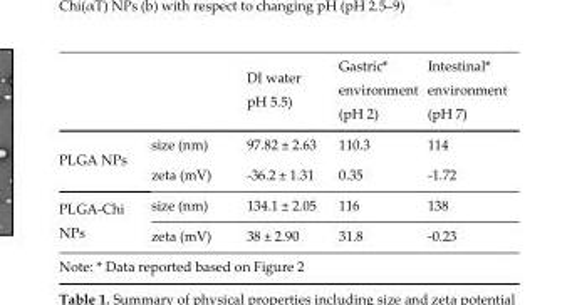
<table><thead><tr><td></td><td></td><td>DI water pH 5.5)</td><td>Gastric* environment (pH 2)</td><td>Intestinal* environment (pH 7)</td></tr></thead><tbody><tr><td>PLGA NPs</td><td>size (nm) zeta (mV)</td><td>97.82 ± 2.63 -36.2 ± 1.31</td><td>110.3 0.35</td><td>114 -1.72</td></tr><tr><td rowspan="2">PLGA-Chi NPs</td><td>size (nm)</td><td>134.1 ± 2.05</td><td>116</td><td>138</td></tr><tr><td>zeta (mV)</td><td>38 ± 2.90</td><td>31.8</td><td>-0.23</td></tr></tbody></table>